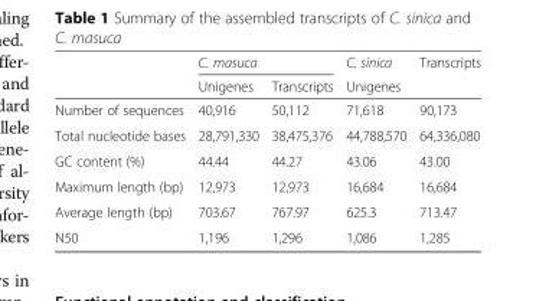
<table><thead><tr><td rowspan="2"></td><td colspan="2">C. masuca</td><td rowspan="2">C. sinica Unigenes</td><td rowspan="2">Transcripts</td></tr><tr><td>Unigenes</td><td>Transcripts</td></tr></thead><tbody><tr><td>Number of sequences</td><td>40,916</td><td>50,112</td><td>71,618</td><td>90,173</td></tr><tr><td>Total nucleotide bases</td><td>28,791,330</td><td>38,475,376</td><td>44,788,570</td><td>64,336,080</td></tr><tr><td>GC content (%)</td><td>44.44</td><td>44.27</td><td>43.06</td><td>43.00</td></tr><tr><td>Maximum length (bp)</td><td>12,973</td><td>12,973</td><td>16,684</td><td>16,684</td></tr><tr><td>Average length (bp)</td><td>703.67</td><td>767.97</td><td>625.3</td><td>713.47</td></tr><tr><td>N50</td><td>1,196</td><td>1,296</td><td>1,086</td><td>1,285</td></tr></tbody></table>